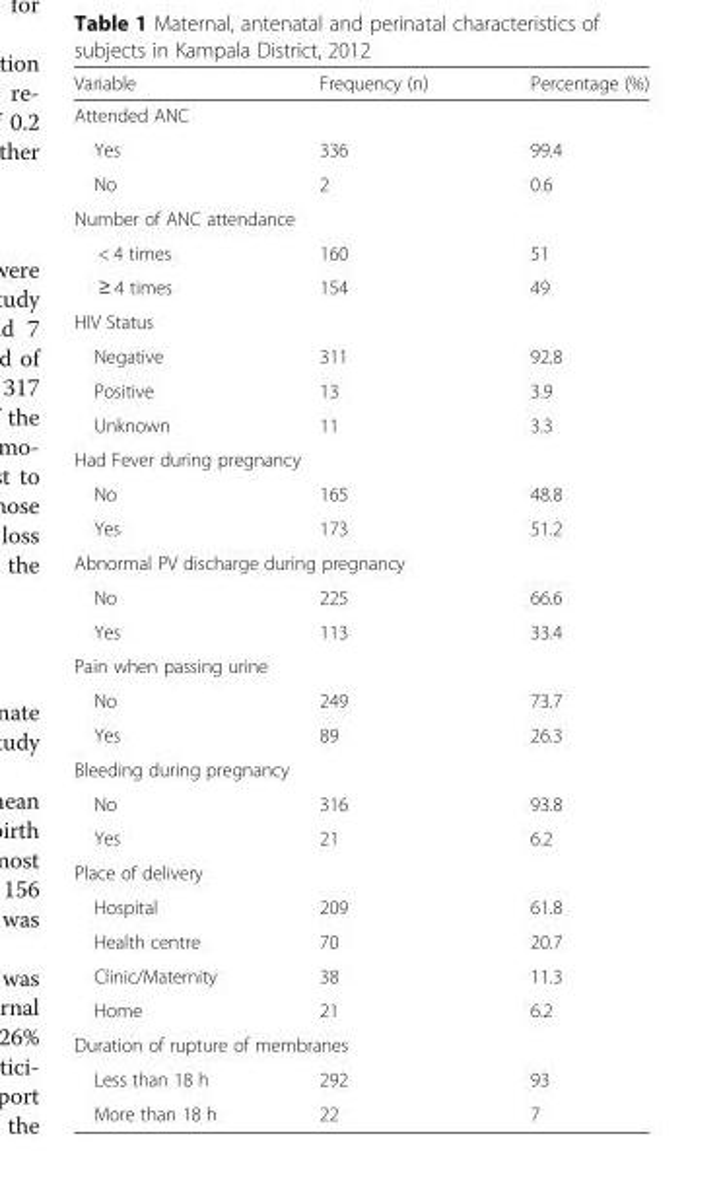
<table><thead><tr><td>Variable</td><td>Frequency (n)</td><td>Percentage (%)</td></tr></thead><tbody><tr><td colspan="3">Attended ANC</td></tr><tr><td>Yes</td><td>336</td><td>99.4</td></tr><tr><td>No</td><td>2</td><td>0.6</td></tr><tr><td colspan="3">Number of ANC attendance</td></tr><tr><td>&lt; 4 times</td><td>160</td><td>51</td></tr><tr><td>≥ 4 times</td><td>154</td><td>49</td></tr><tr><td colspan="3">HIV Status</td></tr><tr><td>Negative</td><td>311</td><td>92.8</td></tr><tr><td>Positive</td><td>13</td><td>3.9</td></tr><tr><td>Unknown</td><td>11</td><td>3.3</td></tr><tr><td colspan="3">Had Fever during pregnancy</td></tr><tr><td>No</td><td>165</td><td>48.8</td></tr><tr><td>Yes</td><td>173</td><td>51.2</td></tr><tr><td colspan="3">Abnormal PV discharge during pregnancy</td></tr><tr><td>No</td><td>225</td><td>66.6</td></tr><tr><td>Yes</td><td>113</td><td>33.4</td></tr><tr><td colspan="3">Pain when passing urine</td></tr><tr><td>No</td><td>249</td><td>73.7</td></tr><tr><td>Yes</td><td>89</td><td>26.3</td></tr><tr><td colspan="3">Bleeding during pregnancy</td></tr><tr><td>No</td><td>316</td><td>93.8</td></tr><tr><td>Yes</td><td>21</td><td>6.2</td></tr><tr><td colspan="3">Place of delivery</td></tr><tr><td>Hospital</td><td>209</td><td>61.8</td></tr><tr><td>Health centre</td><td>70</td><td>20.7</td></tr><tr><td>Clinic/Maternity</td><td>38</td><td>11.3</td></tr><tr><td>Home</td><td>21</td><td>6.2</td></tr><tr><td colspan="3">Duration of rupture of membranes</td></tr><tr><td>Less than 18 h</td><td>292</td><td>93</td></tr><tr><td>More than 18 h</td><td>22</td><td>7</td></tr></tbody></table>